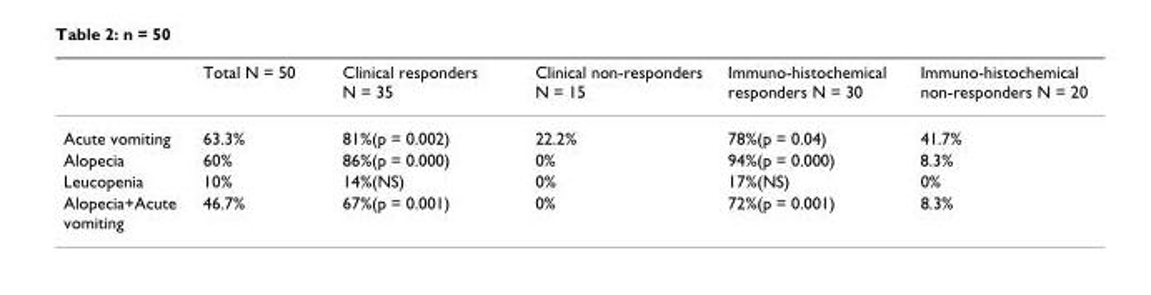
<table><thead><tr><td></td><td>Total N = 50</td><td>Clinical responders N = 35</td><td>Clinical non-responders N = 15</td><td>Immuno-histochemical responders N = 30</td><td>Immuno-histochemical non-responders N = 20</td></tr></thead><tbody><tr><td>Acute vomiting</td><td>63.3%</td><td>81%(p = 0.002)</td><td>22.2%</td><td>78%(p = 0.04)</td><td>41.7%</td></tr><tr><td>Alopecia</td><td>60%</td><td>86%(p = 0.000)</td><td>0%</td><td>94%(p = 0.000)</td><td>8.3%</td></tr><tr><td>Leucopenia</td><td>10%</td><td>14%(NS)</td><td>0%</td><td>17%(NS)</td><td>0%</td></tr><tr><td>Alopecia+Acute vomiting</td><td>46.7%</td><td>67%(p = 0.001)</td><td>0%</td><td>72%(p = 0.001)</td><td>8.3%</td></tr></tbody></table>